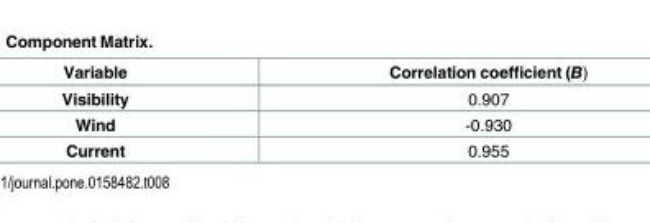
<table><thead><tr><td>Variable</td><td>Correlation coefficient (B)</td></tr></thead><tbody><tr><td>Visibility</td><td>0.907</td></tr><tr><td>Wind</td><td>-0.930</td></tr><tr><td>Current</td><td>0.955</td></tr></tbody></table>